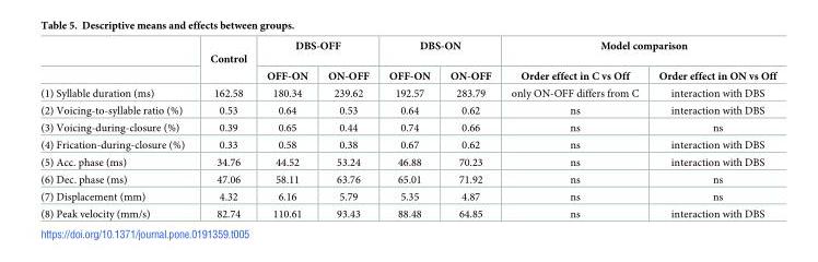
<table><thead><tr><td rowspan="2"></td><td rowspan="2">Control</td><td colspan="2">DBS-OFF</td><td colspan="2">DBS-ON</td><td colspan="2">Model comparison</td></tr><tr><td>OFF-ON</td><td>ON-OFF</td><td>OFF-ON</td><td>ON-OFF</td><td>Order effect in C vs Off</td><td>Order effect in ON vs Off</td></tr></thead><tbody><tr><td>(1) Syllable duration (ms)</td><td>162.58</td><td>180.34</td><td>239.62</td><td>192.57</td><td>283.79</td><td>only ON-OFF differs from C</td><td>interaction with DBS</td></tr><tr><td>(2) Voicing-to-syllable ratio (%)</td><td>0.53</td><td>0.64</td><td>0.53</td><td>0.64</td><td>0.62</td><td>ns</td><td>interaction with DBS</td></tr><tr><td>(3) Voicing-during-closure (%)</td><td>0.39</td><td>0.65</td><td>0.44</td><td>0.74</td><td>0.66</td><td>ns</td><td>ns</td></tr><tr><td>(4) Frication-during-closure (%)</td><td>0.33</td><td>0.58</td><td>0.38</td><td>0.67</td><td>0.62</td><td>ns</td><td>interaction with DBS</td></tr><tr><td>(5) Acc. phase (ms)</td><td>34.76</td><td>44.52</td><td>53.24</td><td>46.88</td><td>70.23</td><td>ns</td><td>interaction with DBS</td></tr><tr><td>(6) Dec. phase (ms)</td><td>47.06</td><td>58.11</td><td>63.76</td><td>65.01</td><td>71.92</td><td>ns</td><td>ns</td></tr><tr><td>(7) Displacement (mm)</td><td>4.32</td><td>6.16</td><td>5.79</td><td>5.35</td><td>4.87</td><td>ns</td><td>ns</td></tr><tr><td>(8) Peak velocity (mm/s)</td><td>82.74</td><td>110.61</td><td>93.43</td><td>88.48</td><td>64.85</td><td>ns</td><td>interaction with DBS</td></tr></tbody></table>